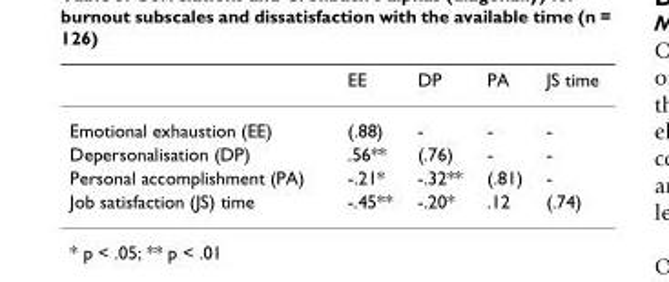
<table><thead><tr><td></td><td>EE</td><td>DP</td><td>PA</td><td>JS time</td></tr></thead><tbody><tr><td>Emotional exhaustion (EE)</td><td>(.88)</td><td>-</td><td>-</td><td>-</td></tr><tr><td>Depersonalisation (DP)</td><td>.56**</td><td>(.76)</td><td>-</td><td>-</td></tr><tr><td>Personal accomplishment (PA)</td><td>-.21*</td><td>-.32**</td><td>(.81)</td><td>-</td></tr><tr><td>Job satisfaction (JS) time</td><td>-.45**</td><td>-.20*</td><td>.12</td><td>(.74)</td></tr></tbody></table>